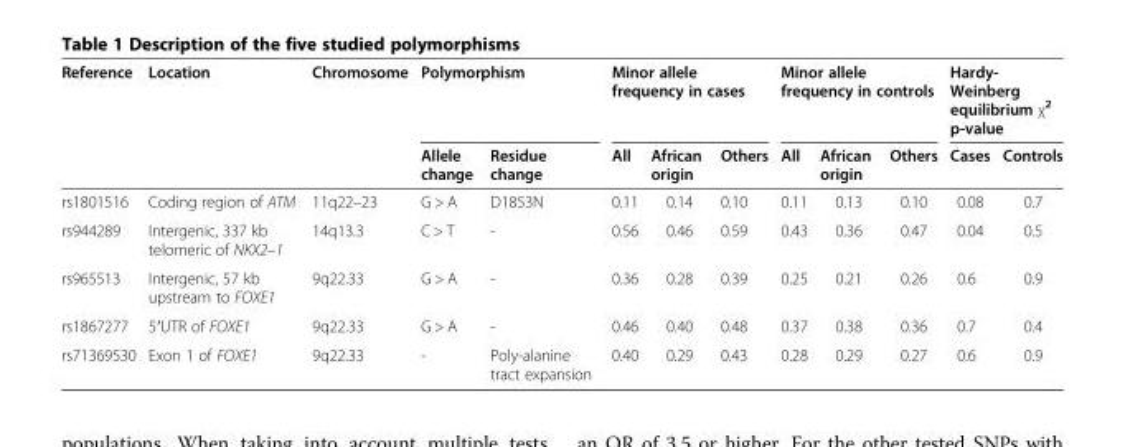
<table><thead><tr><td rowspan="2">Reference</td><td rowspan="2">Location</td><td rowspan="2">Chromosome</td><td colspan="2">Polymorphism</td><td colspan="3">Minor allele frequency in cases</td><td colspan="3">Minor allele frequency in controls</td><td colspan="2">Hardy- Weinberg equilibrium χ<sup>2</sup> p-value</td></tr><tr><td>Allele change</td><td>Residue change</td><td>All</td><td>African origin</td><td>Others</td><td>All</td><td>African origin</td><td>Others</td><td>Cases</td><td>Controls</td></tr></thead><tbody><tr><td>rs1801516</td><td>Coding region of ATM</td><td>11q22–23</td><td>G &gt; A</td><td>D1853N</td><td>0.11</td><td>0.14</td><td>0.10</td><td>0.11</td><td>0.13</td><td>0.10</td><td>0.08</td><td>0.7</td></tr><tr><td>rs944289</td><td>Intergenic, 337 kb telomeric of NKX2–1</td><td>14q13.3</td><td>C &gt; T</td><td>-</td><td>0.56</td><td>0.46</td><td>0.59</td><td>0.43</td><td>0.36</td><td>0.47</td><td>0.04</td><td>0.5</td></tr><tr><td>rs965513</td><td>Intergenic, 57 kb upstream to FOXE1</td><td>9q22.33</td><td>G &gt; A</td><td>-</td><td>0.36</td><td>0.28</td><td>0.39</td><td>0.25</td><td>0.21</td><td>0.26</td><td>0.6</td><td>0.9</td></tr><tr><td>rs1867277</td><td>5′UTR of FOXE1</td><td>9q22.33</td><td>G &gt; A</td><td>-</td><td>0.46</td><td>0.40</td><td>0.48</td><td>0.37</td><td>0.38</td><td>0.36</td><td>0.7</td><td>0.4</td></tr><tr><td>rs71369530</td><td>Exon 1 of FOXE1</td><td>9q22.33</td><td>-</td><td>Poly-alanine tract expansion</td><td>0.40</td><td>0.29</td><td>0.43</td><td>0.28</td><td>0.29</td><td>0.27</td><td>0.6</td><td>0.9</td></tr></tbody></table>